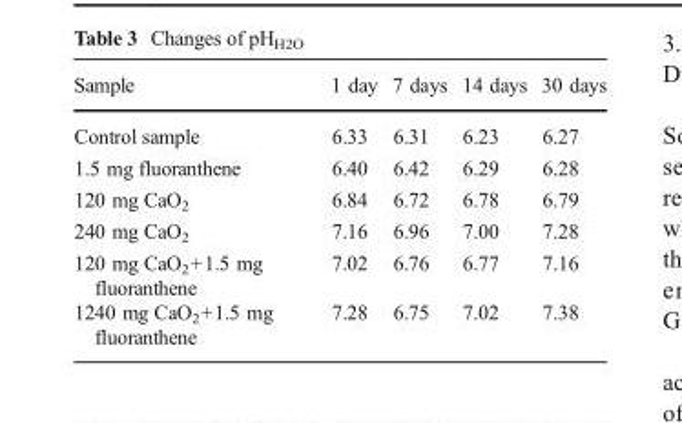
<table><thead><tr><td>Sample</td><td>1 day</td><td>7 days</td><td>14 days</td><td>30 days</td></tr></thead><tbody><tr><td>Control sample</td><td>6.33</td><td>6.31</td><td>6.23</td><td>6.27</td></tr><tr><td>1.5 mg fluoranthene</td><td>6.40</td><td>6.42</td><td>6.29</td><td>6.28</td></tr><tr><td>120 mg CaO<sub>2</sub></td><td>6.84</td><td>6.72</td><td>6.78</td><td>6.79</td></tr><tr><td>240 mg CaO<sub>2</sub></td><td>7.16</td><td>6.96</td><td>7.00</td><td>7.28</td></tr><tr><td>120 mg CaO<sub>2</sub>+1.5 mg fluoranthene</td><td>7.02</td><td>6.76</td><td>6.77</td><td>7.16</td></tr><tr><td>1240 mg CaO<sub>2</sub>+1.5 mg fluoranthene</td><td>7.28</td><td>6.75</td><td>7.02</td><td>7.38</td></tr></tbody></table>